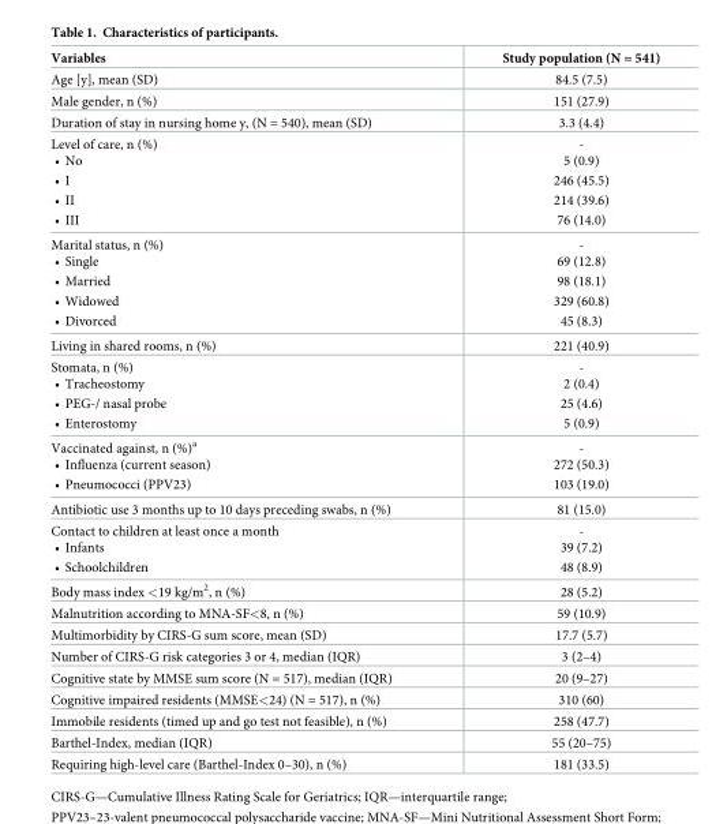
<table><thead><tr><td>Variables</td><td>Study population (N = 541)</td></tr></thead><tbody><tr><td>Age [y], mean (SD)</td><td>84.5 (7.5)</td></tr><tr><td>Male gender, n (%)</td><td>151 (27.9)</td></tr><tr><td>Duration of stay in nursing home y, (N = 540), mean (SD)</td><td>3.3 (4.4)</td></tr><tr><td>Level of care, n (%) • No • I • II • III</td><td>- 5 (0.9) 246 (45.5) 214 (39.6) 76 (14.0)</td></tr><tr><td>Marital status, n (%) • Single • Married • Widowed • Divorced</td><td>- 69 (12.8) 98 (18.1) 329 (60.8) 45 (8.3)</td></tr><tr><td>Living in shared rooms, n (%)</td><td>221 (40.9)</td></tr><tr><td>Stomata, n (%) • Tracheostomy • PEG-/ nasal probe • Enterostomy</td><td>- 2 (0.4) 25 (4.6) 5 (0.9)</td></tr><tr><td>Vaccinated against, n (%)a • Influenza (current season) • Pneumococci (PPV23)</td><td>- 272 (50.3) 103 (19.0)</td></tr><tr><td>Antibiotic use 3 months up to 10 days preceding swabs, n (%)</td><td>81 (15.0)</td></tr><tr><td>Contact to children at least once a month • Infants • Schoolchildren</td><td>- 39 (7.2) 48 (8.9)</td></tr><tr><td>Body mass index &lt;19 kg/m<sup>2</sup>, n (%)</td><td>28 (5.2)</td></tr><tr><td>Malnutrition according to MNA-SF&lt;8, n (%)</td><td>59 (10.9)</td></tr><tr><td>Multimorbidity by CIRS-G sum score, mean (SD)</td><td>17.7 (5.7)</td></tr><tr><td>Number of CIRS-G risk categories 3 or 4, median (IQR)</td><td>3 (2–4)</td></tr><tr><td>Cognitive state by MMSE sum score (N = 517), median (IQR)</td><td>20 (9–27)</td></tr><tr><td>Cognitive impaired residents (MMSE&lt;24) (N = 517), n (%)</td><td>310 (60)</td></tr><tr><td>Immobile residents (timed up and go test not feasible), n (%)</td><td>258 (47.7)</td></tr><tr><td>Barthel-Index, median (IQR)</td><td>55 (20–75)</td></tr><tr><td>Requiring high-level care (Barthel-Index 0–30), n (%)</td><td>181 (33.5)</td></tr></tbody></table>